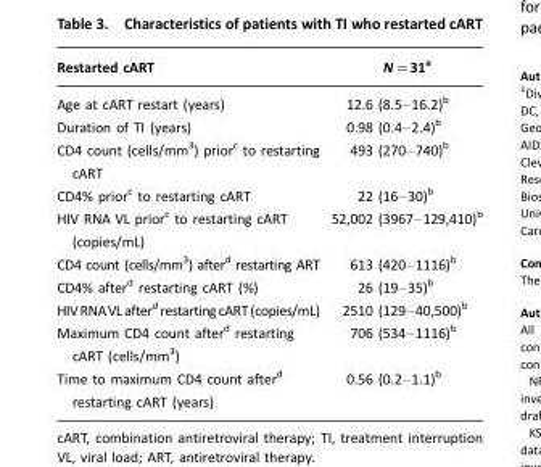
<table><thead><tr><td>Restarted cART</td><td>N=31<sup>a</sup></td></tr></thead><tbody><tr><td>Age at cART restart (years)</td><td>12.6 (8.5–16.2)<sup>b</sup></td></tr><tr><td>Duration of TI (years)</td><td>0.98 (0.4–2.4)<sup>b</sup></td></tr><tr><td>CD4 count (cells/mm<sup>3</sup>) prior<sup>c</sup> to restarting cART</td><td>493 (270–740)<sup>b</sup></td></tr><tr><td>CD4% prior<sup>c</sup> to restarting cART</td><td>22 (16–30)<sup>b</sup></td></tr><tr><td>HIV RNA VL prior<sup>c</sup> to restarting cART (copies/mL)</td><td>52,002 (3967–129,410)<sup>b</sup></td></tr><tr><td>CD4 count (cells/mm<sup>3</sup>) after<sup>d</sup> restarting ART</td><td>613 (420–1116)<sup>b</sup></td></tr><tr><td>CD4% after<sup>d</sup> restarting cART (%)</td><td>26 (19–35)<sup>b</sup></td></tr><tr><td>HIVRNAVLafter<sup>d</sup>restartingcART(copies/mL)</td><td>2510 (129–40,500)<sup>b</sup></td></tr><tr><td>Maximum CD4 count after<sup>d</sup> restarting cART (cells/mm<sup>3</sup>)</td><td>706 (534–1116)<sup>b</sup></td></tr><tr><td>Time to maximum CD4 count after<sup>d</sup> restarting cART (years)</td><td>0.56 (0.2–1.1)<sup>b</sup></td></tr></tbody></table>